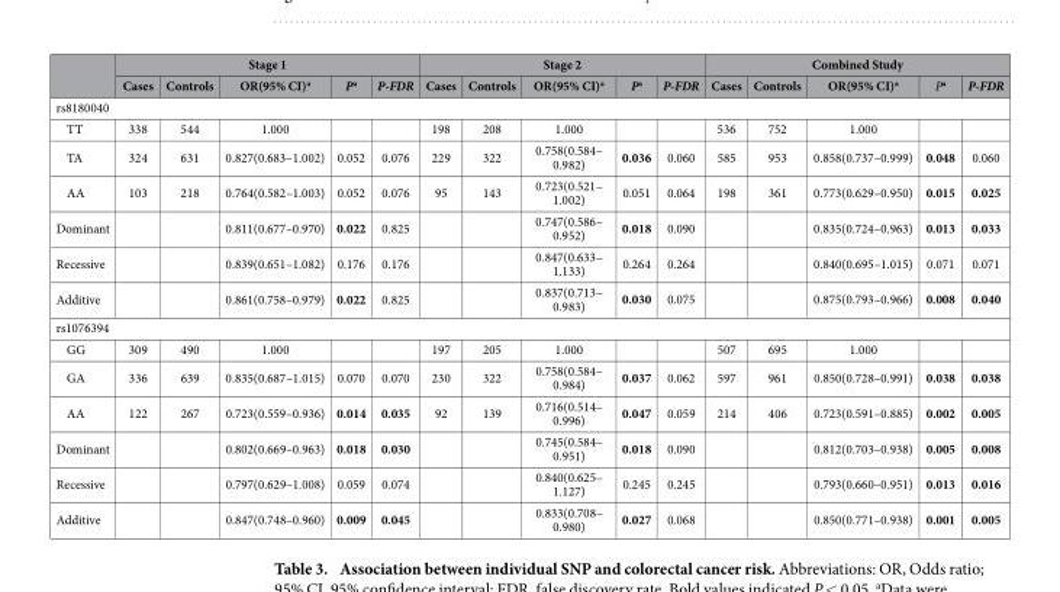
<table><thead><tr><td rowspan="2"></td><td colspan="5">Stage 1</td><td colspan="5">Stage 2</td><td colspan="5">Combined Study</td></tr><tr><td>Cases</td><td>Controls</td><td>OR(95% CI)<sup>a</sup></td><td>P<sup>a</sup></td><td>P-FDR</td><td>Cases</td><td>Controls</td><td>OR(95% CI)<sup>a</sup></td><td>P<sup>a</sup></td><td>P-FDR</td><td>Cases</td><td>Controls</td><td>OR(95% CI)<sup>a</sup></td><td>P<sup>a</sup></td><td>P-FDR</td></tr></thead><tbody><tr><td colspan="16">rs8180040</td></tr><tr><td>TT</td><td>338</td><td>544</td><td>1.000</td><td></td><td></td><td>198</td><td>208</td><td>1.000</td><td></td><td></td><td>536</td><td>752</td><td>1.000</td><td></td><td></td></tr><tr><td>TA</td><td>324</td><td>631</td><td>0.827(0.683–1.002)</td><td>0.052</td><td>0.076</td><td>229</td><td>322</td><td>0.758(0.584– 0.982)</td><td>0.036</td><td>0.060</td><td>585</td><td>953</td><td>0.858(0.737–0.999)</td><td>0.048</td><td>0.060</td></tr><tr><td>AA</td><td>103</td><td>218</td><td>0.764(0.582–1.003)</td><td>0.052</td><td>0.076</td><td>95</td><td>143</td><td>0.723(0.521– 1.002)</td><td>0.051</td><td>0.064</td><td>198</td><td>361</td><td>0.773(0.629–0.950)</td><td>0.015</td><td>0.025</td></tr><tr><td>Dominant</td><td></td><td></td><td>0.811(0.677–0.970)</td><td>0.022</td><td>0.825</td><td></td><td></td><td>0.747(0.586– 0.952)</td><td>0.018</td><td>0.090</td><td></td><td></td><td>0.835(0.724–0.963)</td><td>0.013</td><td>0.033</td></tr><tr><td>Recessive</td><td></td><td></td><td>0.839(0.651–1.082)</td><td>0.176</td><td>0.176</td><td></td><td></td><td>0.847(0.633– 1.133)</td><td>0.264</td><td>0.264</td><td></td><td></td><td>0.840(0.695–1.015)</td><td>0.071</td><td>0.071</td></tr><tr><td>Additive</td><td></td><td></td><td>0.861(0.758–0.979)</td><td>0.022</td><td>0.825</td><td></td><td></td><td>0.837(0.713– 0.983)</td><td>0.030</td><td>0.075</td><td></td><td></td><td>0.875(0.793–0.966)</td><td>0.008</td><td>0.040</td></tr><tr><td colspan="16">rs1076394</td></tr><tr><td>GG</td><td>309</td><td>490</td><td>1.000</td><td></td><td></td><td>197</td><td>205</td><td>1.000</td><td></td><td></td><td>507</td><td>695</td><td>1.000</td><td></td><td></td></tr><tr><td>GA</td><td>336</td><td>639</td><td>0.835(0.687–1.015)</td><td>0.070</td><td>0.070</td><td>230</td><td>322</td><td>0.758(0.584– 0.984)</td><td>0.037</td><td>0.062</td><td>597</td><td>961</td><td>0.850(0.728–0.991)</td><td>0.038</td><td>0.038</td></tr><tr><td>AA</td><td>122</td><td>267</td><td>0.723(0.559–0.936)</td><td>0.014</td><td>0.035</td><td>92</td><td>139</td><td>0.716(0.514– 0.996)</td><td>0.047</td><td>0.059</td><td>214</td><td>406</td><td>0.723(0.591–0.885)</td><td>0.002</td><td>0.005</td></tr><tr><td>Dominant</td><td></td><td></td><td>0.802(0.669–0.963)</td><td>0.018</td><td>0.030</td><td></td><td></td><td>0.745(0.584– 0.951)</td><td>0.018</td><td>0.090</td><td></td><td></td><td>0.812(0.703–0.938)</td><td>0.005</td><td>0.008</td></tr><tr><td>Recessive</td><td></td><td></td><td>0.797(0.629–1.008)</td><td>0.059</td><td>0.074</td><td></td><td></td><td>0.840(0.625– 1.127)</td><td>0.245</td><td>0.245</td><td></td><td></td><td>0.793(0.660–0.951)</td><td>0.013</td><td>0.016</td></tr><tr><td>Additive</td><td></td><td></td><td>0.847(0.748–0.960)</td><td>0.009</td><td>0.045</td><td></td><td></td><td>0.833(0.708– 0.980)</td><td>0.027</td><td>0.068</td><td></td><td></td><td>0.850(0.771–0.938)</td><td>0.001</td><td>0.005</td></tr></tbody></table>